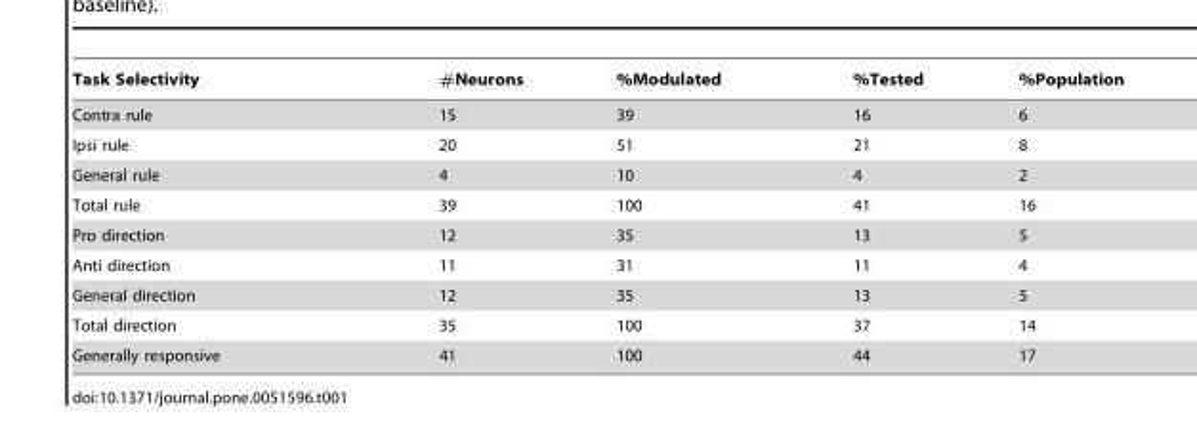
<table><thead><tr><td>Task Selectivity</td><td>#Neurons</td><td>%Modulated</td><td>%Tested</td><td>%Population</td></tr></thead><tbody><tr><td>Contra rule</td><td>15</td><td>39</td><td>16</td><td>6</td></tr><tr><td>Ipsi rule</td><td>20</td><td>51</td><td>21</td><td>8</td></tr><tr><td>General rule</td><td>4</td><td>10</td><td>4</td><td>2</td></tr><tr><td>Total rule</td><td>39</td><td>100</td><td>41</td><td>16</td></tr><tr><td>Pro direction</td><td>12</td><td>35</td><td>13</td><td>5</td></tr><tr><td>Anti direction</td><td>11</td><td>31</td><td>11</td><td>4</td></tr><tr><td>General direction</td><td>12</td><td>35</td><td>13</td><td>5</td></tr><tr><td>Total direction</td><td>35</td><td>100</td><td>37</td><td>14</td></tr><tr><td>Generally responsive</td><td>41</td><td>100</td><td>44</td><td>17</td></tr></tbody></table>